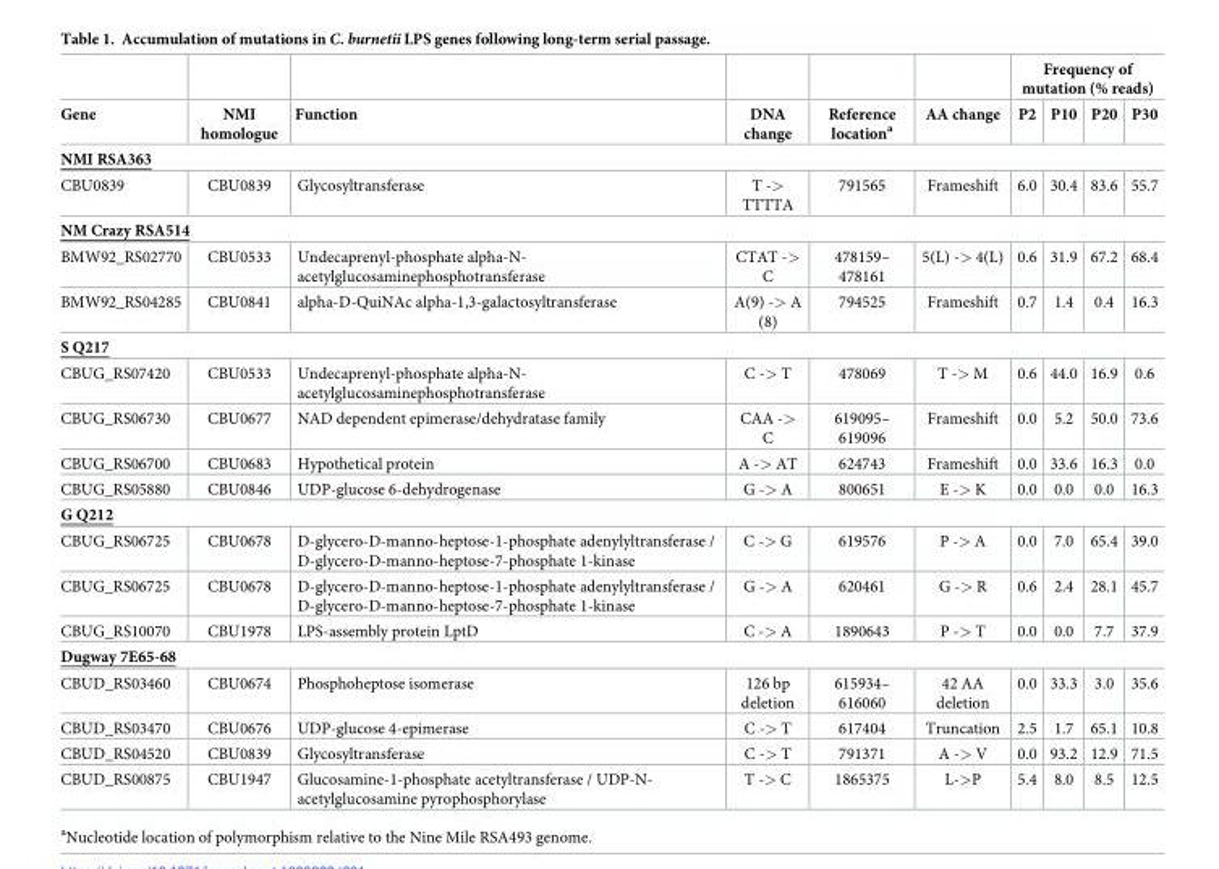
<table><thead><tr><td rowspan="2">Gene</td><td rowspan="2">NMI homologue</td><td rowspan="2">Function</td><td rowspan="2">DNA change</td><td rowspan="2">Reference location<sup>a</sup></td><td rowspan="2">AA change</td><td colspan="4">Frequency of mutation (% reads)</td></tr><tr><td>P2</td><td>P10</td><td>P20</td><td>P30</td></tr></thead><tbody><tr><td colspan="10">NMI RSA363</td></tr><tr><td>CBU0839</td><td>CBU0839</td><td>Glycosyltransferase</td><td>T -&gt; TTTTA</td><td>791565</td><td>Frameshift</td><td>6.0</td><td>30.4</td><td>83.6</td><td>55.7</td></tr><tr><td colspan="10">NM Crazy RSA514</td></tr><tr><td>BMW92_RS02770</td><td>CBU0533</td><td>Undecaprenyl-phosphate alpha-N- acetylglucosaminephosphotransferase</td><td>CTAT -&gt; C</td><td>478159– 478161</td><td>5(L) -&gt; 4(L)</td><td>0.6</td><td>31.9</td><td>67.2</td><td>68.4</td></tr><tr><td>BMW92_RS04285</td><td>CBU0841</td><td>alpha-D-QuiNAc alpha-1,3-galactosyltransferase</td><td>A(9) -&gt; A (8)</td><td>794525</td><td>Frameshift</td><td>0.7</td><td>1.4</td><td>0.4</td><td>16.3</td></tr><tr><td colspan="10">S Q217</td></tr><tr><td>CBUG_RS07420</td><td>CBU0533</td><td>Undecaprenyl-phosphate alpha-N- acetylglucosaminephosphotransferase</td><td>C -&gt; T</td><td>478069</td><td>T -&gt; M</td><td>0.6</td><td>44.0</td><td>16.9</td><td>0.6</td></tr><tr><td>CBUG_RS06730</td><td>CBU0677</td><td>NAD dependent epimerase/dehydratase family</td><td>CAA -&gt; C</td><td>619095– 619096</td><td>Frameshift</td><td>0.0</td><td>5.2</td><td>50.0</td><td>73.6</td></tr><tr><td>CBUG_RS06700</td><td>CBU0683</td><td>Hypothetical protein</td><td>A -&gt; AT</td><td>624743</td><td>Frameshift</td><td>0.0</td><td>33.6</td><td>16.3</td><td>0.0</td></tr><tr><td>CBUG_RS05880</td><td>CBU0846</td><td>UDP-glucose 6-dehydrogenase</td><td>G -&gt; A</td><td>800651</td><td>E -&gt; K</td><td>0.0</td><td>0.0</td><td>0.0</td><td>16.3</td></tr><tr><td colspan="10">G Q212</td></tr><tr><td>CBUG_RS06725</td><td>CBU0678</td><td>D-glycero-D-manno-heptose-1-phosphate adenylyltransferase / D-glycero-D-manno-heptose-7-phosphate 1-kinase</td><td>C -&gt; G</td><td>619576</td><td>P -&gt; A</td><td>0.0</td><td>7.0</td><td>65.4</td><td>39.0</td></tr><tr><td>CBUG_RS06725</td><td>CBU0678</td><td>D-glycero-D-manno-heptose-1-phosphate adenylyltransferase / D-glycero-D-manno-heptose-7-phosphate 1-kinase</td><td>G -&gt; A</td><td>620461</td><td>G -&gt; R</td><td>0.6</td><td>2.4</td><td>28.1</td><td>45.7</td></tr><tr><td>CBUG_RS10070</td><td>CBU1978</td><td>LPS-assembly protein LptD</td><td>C -&gt; A</td><td>1890643</td><td>P -&gt; T</td><td>0.0</td><td>0.0</td><td>7.7</td><td>37.9</td></tr><tr><td colspan="10">Dugway 7E65-68</td></tr><tr><td>CBUD_RS03460</td><td>CBU0674</td><td>Phosphoheptose isomerase</td><td>126 bp deletion</td><td>615934– 616060</td><td>42 AA deletion</td><td>0.0</td><td>33.3</td><td>3.0</td><td>35.6</td></tr><tr><td>CBUD_RS03470</td><td>CBU0676</td><td>UDP-glucose 4-epimerase</td><td>C -&gt; T</td><td>617404</td><td>Truncation</td><td>2.5</td><td>1.7</td><td>65.1</td><td>10.8</td></tr><tr><td>CBUD_RS04520</td><td>CBU0839</td><td>Glycosyltransferase</td><td>C -&gt; T</td><td>791371</td><td>A -&gt; V</td><td>0.0</td><td>93.2</td><td>12.9</td><td>71.5</td></tr><tr><td>CBUD_RS00875</td><td>CBU1947</td><td>Glucosamine-1-phosphate acetyltransferase / UDP-N- acetylglucosamine pyrophosphorylase</td><td>T -&gt; C</td><td>1865375</td><td>L-&gt;P</td><td>5.4</td><td>8.0</td><td>8.5</td><td>12.5</td></tr></tbody></table>